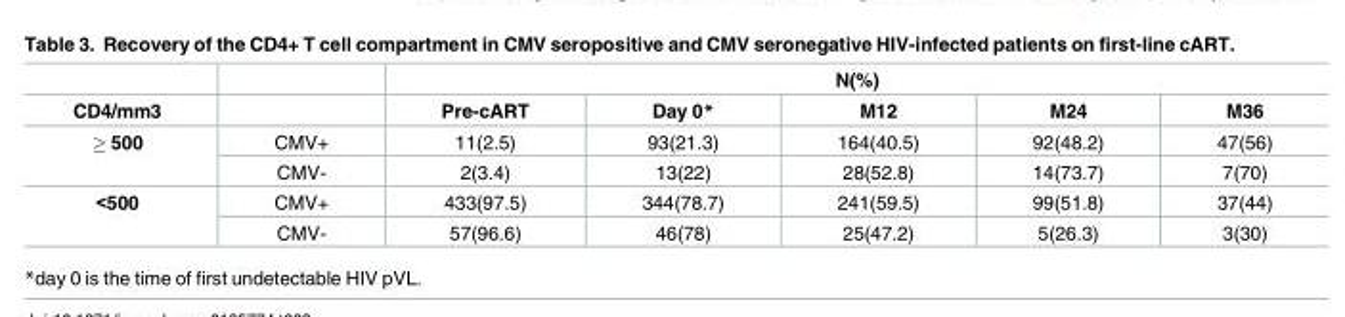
<table><thead><tr><td rowspan="2">CD4/mm3</td><td rowspan="2"></td><td colspan="5">N(%)</td></tr><tr><td>Pre-cART</td><td>Day 0*</td><td>M12</td><td>M24</td><td>M36</td></tr></thead><tbody><tr><td rowspan="2">≥ 500</td><td>CMV+</td><td>11(2.5)</td><td>93(21.3)</td><td>164(40.5)</td><td>92(48.2)</td><td>47(56)</td></tr><tr><td>CMV-</td><td>2(3.4)</td><td>13(22)</td><td>28(52.8)</td><td>14(73.7)</td><td>7(70)</td></tr><tr><td rowspan="2">&lt;500</td><td>CMV+</td><td>433(97.5)</td><td>344(78.7)</td><td>241(59.5)</td><td>99(51.8)</td><td>37(44)</td></tr><tr><td>CMV-</td><td>57(96.6)</td><td>46(78)</td><td>25(47.2)</td><td>5(26.3)</td><td>3(30)</td></tr></tbody></table>